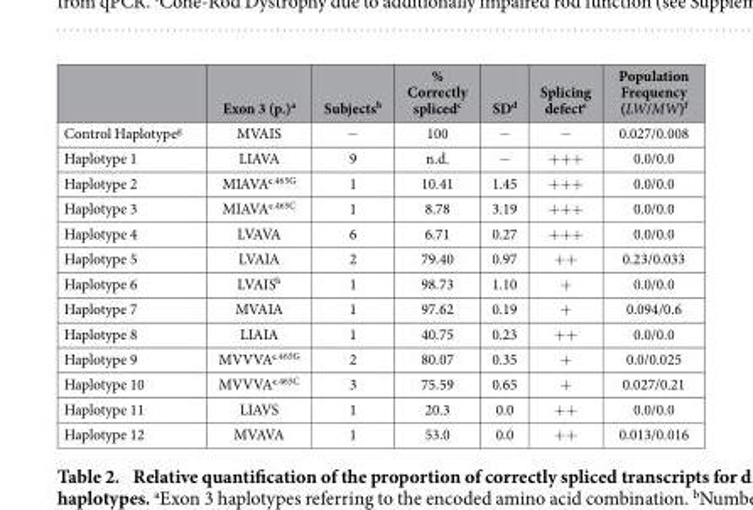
<table><thead><tr><td></td><td>Exon 3 (p.)<sup>a</sup></td><td>Subjects<sup>b</sup></td><td>% Correctly spliced<sup>c</sup></td><td>SD<sup>d</sup></td><td>Splicing defect<sup>e</sup></td><td>Population Frequency (LW/MW)<sup>f</sup></td></tr></thead><tbody><tr><td>Control Haplotype<sup>g</sup></td><td>MVAIS</td><td>−</td><td>100</td><td>−</td><td>−</td><td>0.027/0.008</td></tr><tr><td>Haplotype 1</td><td>LIAVA</td><td>9</td><td>n.d.</td><td>−</td><td>+ + +</td><td>0.0/0.0</td></tr><tr><td>Haplotype 2</td><td>MIAVA<sup>c.465G</sup></td><td>1</td><td>10.41</td><td>1.45</td><td>+ + +</td><td>0.0/0.0</td></tr><tr><td>Haplotype 3</td><td>MIAVA<sup>c.465C</sup></td><td>1</td><td>8.78</td><td>3.19</td><td>+ + +</td><td>0.0/0.0</td></tr><tr><td>Haplotype 4</td><td>LVAVA</td><td>6</td><td>6.71</td><td>0.27</td><td>+ + +</td><td>0.0/0.0</td></tr><tr><td>Haplotype 5</td><td>LVAIA</td><td>2</td><td>79.40</td><td>0.97</td><td>+ +</td><td>0.23/0.033</td></tr><tr><td>Haplotype 6</td><td>LVAIS<sup>h</sup></td><td>1</td><td>98.73</td><td>1.10</td><td>+</td><td>0.0/0.0</td></tr><tr><td>Haplotype 7</td><td>MVAIA</td><td>1</td><td>97.62</td><td>0.19</td><td>+</td><td>0.094/0.6</td></tr><tr><td>Haplotype 8</td><td>LIAIA</td><td>1</td><td>40.75</td><td>0.23</td><td>+ +</td><td>0.0/0.0</td></tr><tr><td>Haplotype 9</td><td>MVVVA<sup>c.465G</sup></td><td>2</td><td>80.07</td><td>0.35</td><td>+</td><td>0.0/0.025</td></tr><tr><td>Haplotype 10</td><td>MVVVA<sup>c.465C</sup></td><td>3</td><td>75.59</td><td>0.65</td><td>+</td><td>0.027/0.21</td></tr><tr><td>Haplotype 11</td><td>LIAVS</td><td>1</td><td>20.3</td><td>0.0</td><td>+ +</td><td>0.0/0.0</td></tr><tr><td>Haplotype 12</td><td>MVAVA</td><td>1</td><td>53.0</td><td>0.0</td><td>+ +</td><td>0.013/0.016</td></tr></tbody></table>